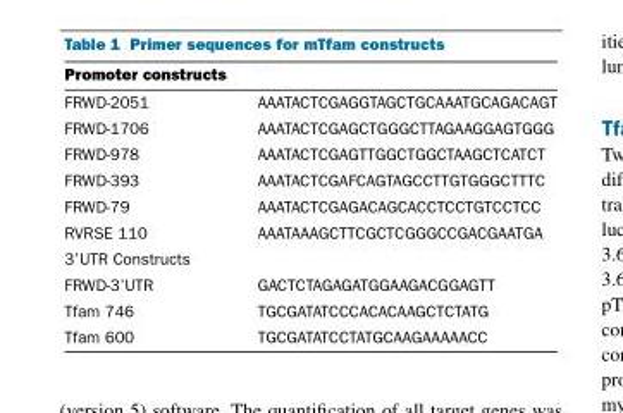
<table><thead><tr><td>Promoter constructs</td><td></td></tr></thead><tbody><tr><td>FRWD-2051</td><td>AAATACTCGAGGTAGCTGCAAATGCAGACAGT</td></tr><tr><td>FRWD-1706</td><td>AAATACTCGAGCTGGGCTTAGAAGGAGTGGG</td></tr><tr><td>FRWD-978</td><td>AAATACTCGAGTTGGCTGGCTAAGCTCATCT</td></tr><tr><td>FRWD-393</td><td>AAATACTCGAFCAGTAGCCTTGTGGGCTTTC</td></tr><tr><td>FRWD-79</td><td>AAATACTCGAGACAGCACCTCCTGTCCTCC</td></tr><tr><td>RVRSE 110</td><td>AAATAAAGCTTCGCTCGGGCCGACGAATGA</td></tr><tr><td colspan="2">3’UTR Constructs</td></tr><tr><td>FRWD-3’UTR</td><td>GACTCTAGAGATGGAAGACGGAGTT</td></tr><tr><td>Tfam 746</td><td>TGCGATATCCCACACAAGCTCTATG</td></tr><tr><td>Tfam 600</td><td>TGCGATATCCTATGCAAGAAAAACC</td></tr></tbody></table>